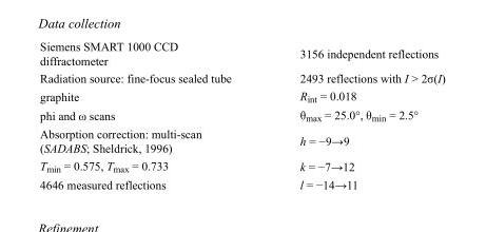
<table><tbody><tr><td>Siemens SMART 1000 CCD diffractometer</td><td>3156 independent reflections</td></tr><tr><td>Radiation source: fine-focus sealed tube</td><td>2493 reflections with I &gt; 2σ(I)</td></tr><tr><td>graphite</td><td>R<sub>int</sub> = 0.018</td></tr><tr><td>phi and ω scans</td><td>θ<sub>max</sub> = 25.0°, θ<sub>min</sub> = 2.5°</td></tr><tr><td>Absorption correction: multi-scan (SADABS; Sheldrick, 1996)</td><td>h = −9→9</td></tr><tr><td>T<sub>min</sub> = 0.575, T<sub>max</sub> = 0.733</td><td>k = −7→12</td></tr><tr><td>4646 measured reflections</td><td>l = −14→11</td></tr></tbody></table>